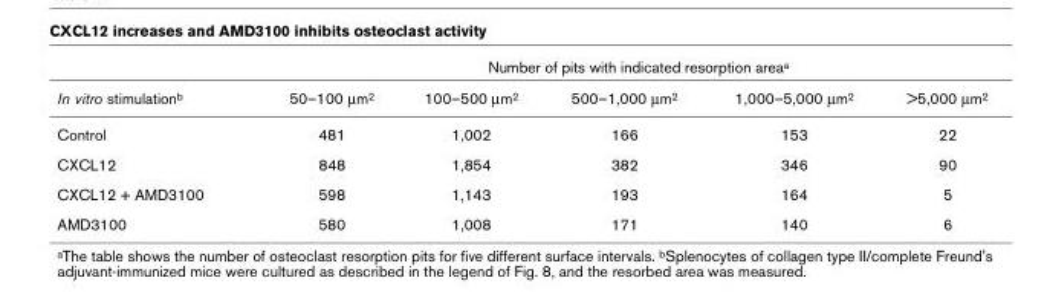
<table><thead><tr><td rowspan="2">In vitro stimulationb</td><td colspan="5">Number of pits with indicated resorption areaa</td></tr><tr><td>50–100 µm2</td><td>100–500 µm2</td><td>500–1,000 µm2</td><td>1,000–5,000 µm2</td><td>&gt;5,000 µm2</td></tr></thead><tbody><tr><td>Control</td><td>481</td><td>1,002</td><td>166</td><td>153</td><td>22</td></tr><tr><td>CXCL12</td><td>848</td><td>1,854</td><td>382</td><td>346</td><td>90</td></tr><tr><td>CXCL12 + AMD3100</td><td>598</td><td>1,143</td><td>193</td><td>164</td><td>5</td></tr><tr><td>AMD3100</td><td>580</td><td>1,008</td><td>171</td><td>140</td><td>6</td></tr></tbody></table>